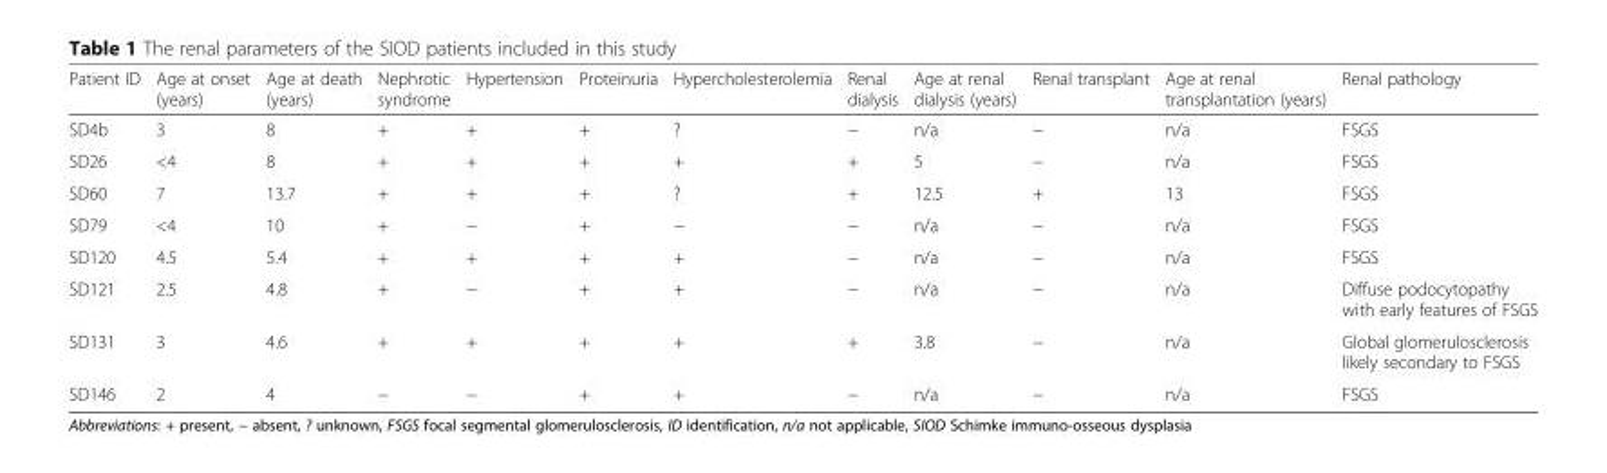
<table><thead><tr><td>Patient ID</td><td>Age at onset (years)</td><td>Age at death (years)</td><td>Nephrotic syndrome</td><td>Hypertension</td><td>Proteinuria</td><td>Hypercholesterolemia</td><td>Renal dialysis</td><td>Age at renal dialysis (years)</td><td>Renal transplant</td><td>Age at renal transplantation (years)</td><td>Renal pathology</td></tr></thead><tbody><tr><td>SD4b</td><td>3</td><td>8</td><td>+</td><td>+</td><td>+</td><td>?</td><td>−</td><td>n/a</td><td>−</td><td>n/a</td><td>FSGS</td></tr><tr><td>SD26</td><td>&lt;4</td><td>8</td><td>+</td><td>+</td><td>+</td><td>+</td><td>+</td><td>5</td><td>−</td><td>n/a</td><td>FSGS</td></tr><tr><td>SD60</td><td>7</td><td>13.7</td><td>+</td><td>+</td><td>+</td><td>?</td><td>+</td><td>12.5</td><td>+</td><td>13</td><td>FSGS</td></tr><tr><td>SD79</td><td>&lt;4</td><td>10</td><td>+</td><td>−</td><td>+</td><td>−</td><td>−</td><td>n/a</td><td>−</td><td>n/a</td><td>FSGS</td></tr><tr><td>SD120</td><td>4.5</td><td>5.4</td><td>+</td><td>+</td><td>+</td><td>+</td><td>−</td><td>n/a</td><td>−</td><td>n/a</td><td>FSGS</td></tr><tr><td>SD121</td><td>2.5</td><td>4.8</td><td>+</td><td>−</td><td>+</td><td>+</td><td>−</td><td>n/a</td><td>−</td><td>n/a</td><td>Diffuse podocytopathy with early features of FSGS</td></tr><tr><td>SD131</td><td>3</td><td>4.6</td><td>+</td><td>+</td><td>+</td><td>+</td><td>+</td><td>3.8</td><td>−</td><td>n/a</td><td>Global glomerulosclerosis likely secondary to FSGS</td></tr><tr><td>SD146</td><td>2</td><td>4</td><td>−</td><td>−</td><td>+</td><td>+</td><td>−</td><td>n/a</td><td>−</td><td>n/a</td><td>FSGS</td></tr></tbody></table>